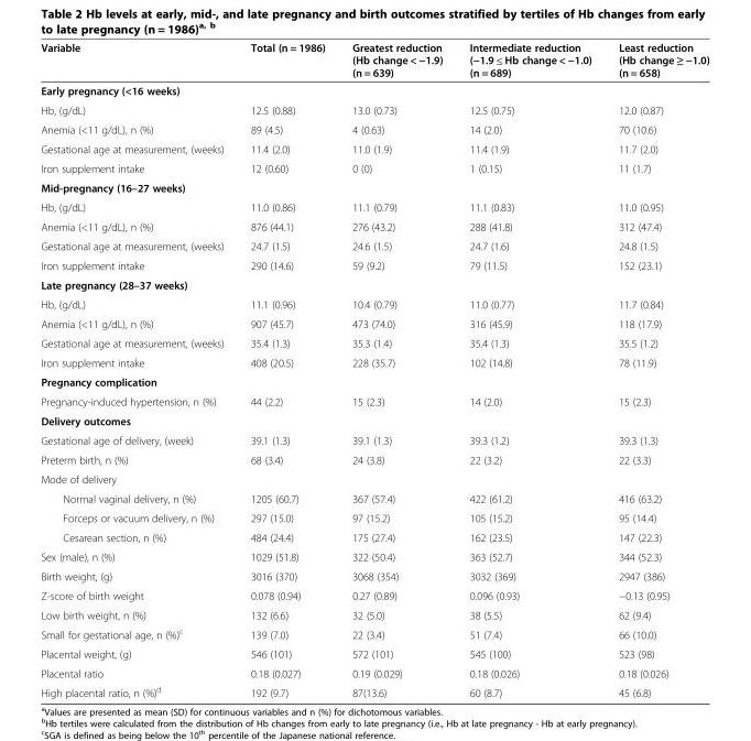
<table><thead><tr><td>Variable</td><td>Total (n = 1986)</td><td>Greatest reduction (Hb change &lt; −1.9) (n = 639)</td><td>Intermediate reduction (−1.9 ≤ Hb change &lt; −1.0) (n = 689)</td><td>Least reduction (Hb change ≥ −1.0) (n = 658)</td></tr></thead><tbody><tr><td colspan="5">Early pregnancy (&lt;16 weeks)</td></tr><tr><td>Hb, (g/dL)</td><td>12.5 (0.88)</td><td>13.0 (0.73)</td><td>12.5 (0.75)</td><td>12.0 (0.87)</td></tr><tr><td>Anemia (&lt;11 g/dL), n (%)</td><td>89 (4.5)</td><td>4 (0.63)</td><td>14 (2.0)</td><td>70 (10.6)</td></tr><tr><td>Gestational age at measurement, (weeks)</td><td>11.4 (2.0)</td><td>11.0 (1.9)</td><td>11.4 (1.9)</td><td>11.7 (2.0)</td></tr><tr><td>Iron supplement intake</td><td>12 (0.60)</td><td>0 (0)</td><td>1 (0.15)</td><td>11 (1.7)</td></tr><tr><td colspan="5">Mid-pregnancy (16–27 weeks)</td></tr><tr><td>Hb, (g/dL)</td><td>11.0 (0.86)</td><td>11.1 (0.79)</td><td>11.1 (0.83)</td><td>11.0 (0.95)</td></tr><tr><td>Anemia (&lt;11 g/dL), n (%)</td><td>876 (44.1)</td><td>276 (43.2)</td><td>288 (41.8)</td><td>312 (47.4)</td></tr><tr><td>Gestational age at measurement, (weeks)</td><td>24.7 (1.5)</td><td>24.6 (1.5)</td><td>24.7 (1.6)</td><td>24.8 (1.5)</td></tr><tr><td>Iron supplement intake</td><td>290 (14.6)</td><td>59 (9.2)</td><td>79 (11.5)</td><td>152 (23.1)</td></tr><tr><td colspan="5">Late pregnancy (28–37 weeks)</td></tr><tr><td>Hb, (g/dL)</td><td>11.1 (0.96)</td><td>10.4 (0.79)</td><td>11.0 (0.77)</td><td>11.7 (0.84)</td></tr><tr><td>Anemia (&lt;11 g/dL), n (%)</td><td>907 (45.7)</td><td>473 (74.0)</td><td>316 (45.9)</td><td>118 (17.9)</td></tr><tr><td>Gestational age at measurement, (weeks)</td><td>35.4 (1.3)</td><td>35.3 (1.4)</td><td>35.4 (1.3)</td><td>35.5 (1.2)</td></tr><tr><td>Iron supplement intake</td><td>408 (20.5)</td><td>228 (35.7)</td><td>102 (14.8)</td><td>78 (11.9)</td></tr><tr><td colspan="5">Pregnancy complication</td></tr><tr><td>Pregnancy-induced hypertension, n (%)</td><td>44 (2.2)</td><td>15 (2.3)</td><td>14 (2.0)</td><td>15 (2.3)</td></tr><tr><td colspan="5">Delivery outcomes</td></tr><tr><td>Gestational age of delivery, (week)</td><td>39.1 (1.3)</td><td>39.1 (1.3)</td><td>39.3 (1.2)</td><td>39.3 (1.3)</td></tr><tr><td>Preterm birth, n (%)</td><td>68 (3.4)</td><td>24 (3.8)</td><td>22 (3.2)</td><td>22 (3.3)</td></tr><tr><td colspan="5">Mode of delivery</td></tr><tr><td>Normal vaginal delivery, n (%)</td><td>1205 (60.7)</td><td>367 (57.4)</td><td>422 (61.2)</td><td>416 (63.2)</td></tr><tr><td>Forceps or vacuum delivery, n (%)</td><td>297 (15.0)</td><td>97 (15.2)</td><td>105 (15.2)</td><td>95 (14.4)</td></tr><tr><td>Cesarean section, n (%)</td><td>484 (24.4)</td><td>175 (27.4)</td><td>162 (23.5)</td><td>147 (22.3)</td></tr><tr><td>Sex (male), n (%)</td><td>1029 (51.8)</td><td>322 (50.4)</td><td>363 (52.7)</td><td>344 (52.3)</td></tr><tr><td>Birth weight, (g)</td><td>3016 (370)</td><td>3068 (354)</td><td>3032 (369)</td><td>2947 (386)</td></tr><tr><td>Z-score of birth weight</td><td>0.078 (0.94)</td><td>0.27 (0.89)</td><td>0.096 (0.93)</td><td>−0.13 (0.95)</td></tr><tr><td>Low birth weight, n (%)</td><td>132 (6.6)</td><td>32 (5.0)</td><td>38 (5.5)</td><td>62 (9.4)</td></tr><tr><td>Small for gestational age, n (%)<sup>c</sup></td><td>139 (7.0)</td><td>22 (3.4)</td><td>51 (7.4)</td><td>66 (10.0)</td></tr><tr><td>Placental weight, (g)</td><td>546 (101)</td><td>572 (101)</td><td>545 (100)</td><td>523 (98)</td></tr><tr><td>Placental ratio</td><td>0.18 (0.027)</td><td>0.19 (0.029)</td><td>0.18 (0.026)</td><td>0.18 (0.026)</td></tr><tr><td>High placental ratio, n (%)<sup>d</sup></td><td>192 (9.7)</td><td>87(13.6)</td><td>60 (8.7)</td><td>45 (6.8)</td></tr></tbody></table>